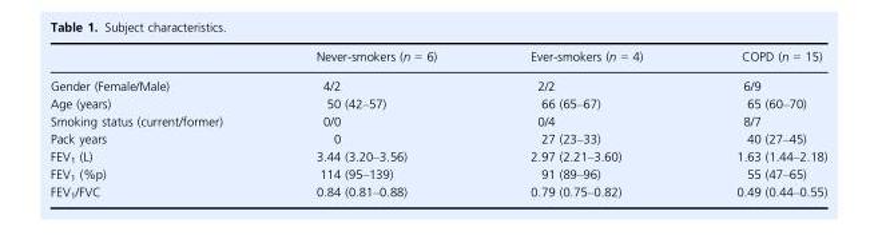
<table><thead><tr><td></td><td>Never-smokers (n = 6)</td><td>Ever-smokers (n = 4)</td><td>COPD (n = 15)</td></tr></thead><tbody><tr><td>Gender (Female/Male)</td><td>4/2</td><td>2/2</td><td>6/9</td></tr><tr><td>Age (years)</td><td>50 (42–57)</td><td>66 (65–67)</td><td>65 (60–70)</td></tr><tr><td>Smoking status (current/former)</td><td>0/0</td><td>0/4</td><td>8/7</td></tr><tr><td>Pack years</td><td>0</td><td>27 (23–33)</td><td>40 (27–45)</td></tr><tr><td>FEV<sub>1</sub> (L)</td><td>3.44 (3.20–3.56)</td><td>2.97 (2.21–3.60)</td><td>1.63 (1.44–2.18)</td></tr><tr><td>FEV<sub>1</sub> (%p)</td><td>114 (95–139)</td><td>91 (89–96)</td><td>55 (47–65)</td></tr><tr><td>FEV<sub>1</sub>/FVC</td><td>0.84 (0.81–0.88)</td><td>0.79 (0.75–0.82)</td><td>0.49 (0.44–0.55)</td></tr></tbody></table>